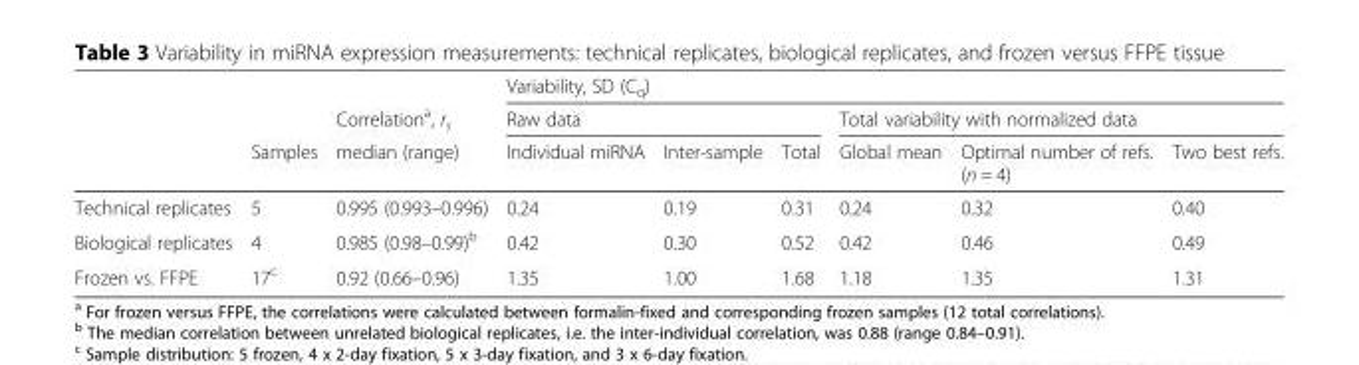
<table><thead><tr><td rowspan="3"></td><td rowspan="3">Samples</td><td rowspan="3">Correlation<sup>a</sup>, r<sub>s</sub> median (range)</td><td colspan="6">Variability, SD (C<sub>q</sub>)</td></tr><tr><td colspan="3">Raw data</td><td colspan="3">Total variability with normalized data</td></tr><tr><td>Individual miRNA</td><td>Inter-sample</td><td>Total</td><td>Global mean</td><td>Optimal number of refs. (n = 4)</td><td>Two best refs.</td></tr></thead><tbody><tr><td>Technical replicates</td><td>5</td><td>0.995 (0.993–0.996)</td><td>0.24</td><td>0.19</td><td>0.31</td><td>0.24</td><td>0.32</td><td>0.40</td></tr><tr><td>Biological replicates</td><td>4</td><td>0.985 (0.98–0.99)<sup>b</sup></td><td>0.42</td><td>0.30</td><td>0.52</td><td>0.42</td><td>0.46</td><td>0.49</td></tr><tr><td>Frozen vs. FFPE</td><td>17<sup>c</sup></td><td>0.92 (0.66–0.96)</td><td>1.35</td><td>1.00</td><td>1.68</td><td>1.18</td><td>1.35</td><td>1.31</td></tr></tbody></table>